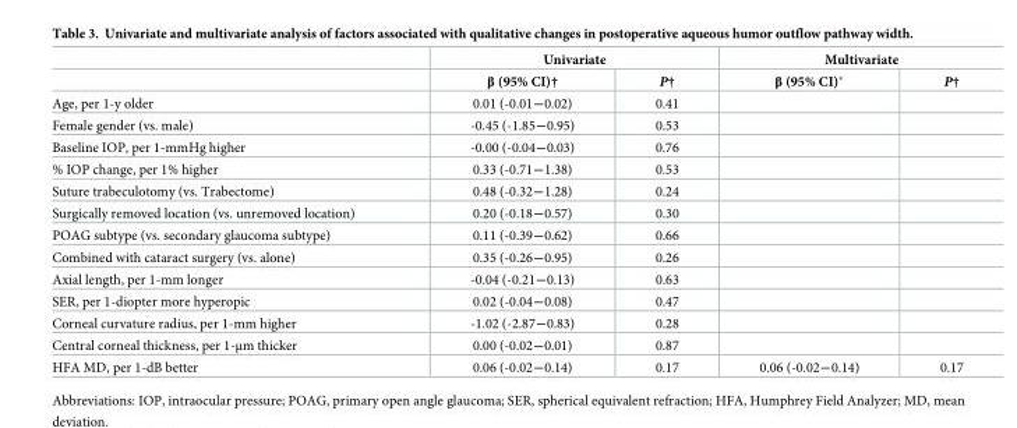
<table><thead><tr><td rowspan="2"></td><td colspan="2">Univariate</td><td colspan="2">Multivariate</td></tr><tr><td>β (95% CI)†</td><td>P†</td><td>β (95% CI)*</td><td>P†</td></tr></thead><tbody><tr><td>Age, per 1-y older</td><td>0.01 (-0.01―0.02)</td><td>0.41</td><td></td><td></td></tr><tr><td>Female gender (vs. male)</td><td>-0.45 (-1.85―0.95)</td><td>0.53</td><td></td><td></td></tr><tr><td>Baseline IOP, per 1-mmHg higher</td><td>-0.00 (-0.04―0.03)</td><td>0.76</td><td></td><td></td></tr><tr><td>% IOP change, per 1% higher</td><td>0.33 (-0.71―1.38)</td><td>0.53</td><td></td><td></td></tr><tr><td>Suture trabeculotomy (vs. Trabectome)</td><td>0.48 (-0.32―1.28)</td><td>0.24</td><td></td><td></td></tr><tr><td>Surgically removed location (vs. unremoved location)</td><td>0.20 (-0.18―0.57)</td><td>0.30</td><td></td><td></td></tr><tr><td>POAG subtype (vs. secondary glaucoma subtype)</td><td>0.11 (-0.39―0.62)</td><td>0.66</td><td></td><td></td></tr><tr><td>Combined with cataract surgery (vs. alone)</td><td>0.35 (-0.26―0.95)</td><td>0.26</td><td></td><td></td></tr><tr><td>Axial length, per 1-mm longer</td><td>-0.04 (-0.21―0.13)</td><td>0.63</td><td></td><td></td></tr><tr><td>SER, per 1-diopter more hyperopic</td><td>0.02 (-0.04―0.08)</td><td>0.47</td><td></td><td></td></tr><tr><td>Corneal curvature radius, per 1-mm higher</td><td>-1.02 (-2.87―0.83)</td><td>0.28</td><td></td><td></td></tr><tr><td>Central corneal thickness, per 1-μm thicker</td><td>0.00 (-0.02―0.01)</td><td>0.87</td><td></td><td></td></tr><tr><td>HFA MD, per 1-dB better</td><td>0.06 (-0.02―0.14)</td><td>0.17</td><td>0.06 (-0.02―0.14)</td><td>0.17</td></tr></tbody></table>